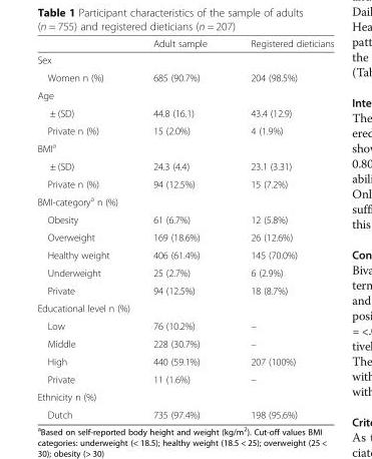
<table><thead><tr><td></td><td>Adult sample</td><td>Registered dieticians</td></tr></thead><tbody><tr><td colspan="3">Sex</td></tr><tr><td>Women n (%)</td><td>685 (90.7%)</td><td>204 (98.5%)</td></tr><tr><td colspan="3">Age</td></tr><tr><td>± (SD)</td><td>44.8 (16.1)</td><td>43.4 (12.9)</td></tr><tr><td>Private n (%)</td><td>15 (2.0%)</td><td>4 (1.9%)</td></tr><tr><td colspan="3">BMI<sup>a</sup></td></tr><tr><td>± (SD)</td><td>24.3 (4.4)</td><td>23.1 (3.31)</td></tr><tr><td>Private n (%)</td><td>94 (12.5%)</td><td>15 (7.2%)</td></tr><tr><td colspan="3">BMI-category<sup>a</sup> n (%)</td></tr><tr><td>Obesity</td><td>61 (6.7%)</td><td>12 (5.8%)</td></tr><tr><td>Overweight</td><td>169 (18.6%)</td><td>26 (12.6%)</td></tr><tr><td>Healthy weight</td><td>406 (61.4%)</td><td>145 (70.0%)</td></tr><tr><td>Underweight</td><td>25 (2.7%)</td><td>6 (2.9%)</td></tr><tr><td>Private</td><td>94 (12.5%)</td><td>18 (8.7%)</td></tr><tr><td colspan="3">Educational level n (%)</td></tr><tr><td>Low</td><td>76 (10.2%)</td><td>–</td></tr><tr><td>Middle</td><td>228 (30.7%)</td><td>–</td></tr><tr><td>High</td><td>440 (59.1%)</td><td>207 (100%)</td></tr><tr><td>Private</td><td>11 (1.6%)</td><td>–</td></tr><tr><td colspan="3">Ethnicity n (%)</td></tr><tr><td>Dutch</td><td>735 (97.4%)</td><td>198 (95.6%)</td></tr></tbody></table>